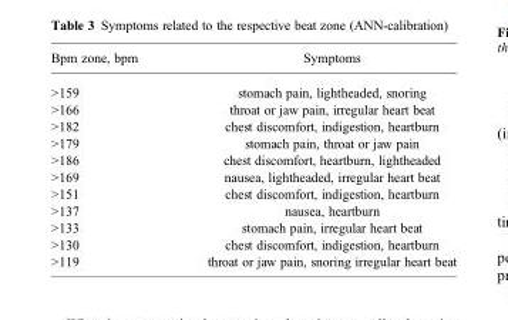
<table><thead><tr><td>Bpm zone, bpm</td><td>Symptoms</td></tr></thead><tbody><tr><td>&gt;159</td><td>stomach pain, lightheaded, snoring</td></tr><tr><td>&gt;166</td><td>throat or jaw pain, irregular heart beat</td></tr><tr><td>&gt;182</td><td>chest discomfort, indigestion, heartburn</td></tr><tr><td>&gt;179</td><td>stomach pain, throat or jaw pain</td></tr><tr><td>&gt;186</td><td>chest discomfort, heartburn, lightheaded</td></tr><tr><td>&gt;169</td><td>nausea, lightheaded, irregular heart beat</td></tr><tr><td>&gt;151</td><td>chest discomfort, indigestion, heartburn</td></tr><tr><td>&gt;137</td><td>nausea, heartburn</td></tr><tr><td>&gt;133</td><td>stomach pain, irregular heart beat</td></tr><tr><td>&gt;130</td><td>chest discomfort, indigestion, heartburn</td></tr><tr><td>&gt;119</td><td>throat or jaw pain, snoring irregular heart beat</td></tr></tbody></table>